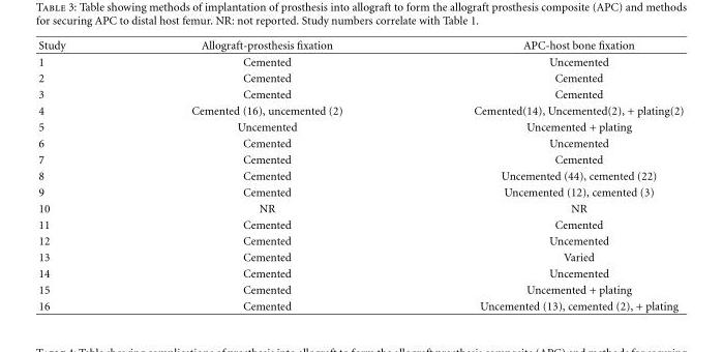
<table><thead><tr><td>Study</td><td>Allograft-prosthesis fixation</td><td>APC-host bone fixation</td></tr></thead><tbody><tr><td>1</td><td>Cemented</td><td>Uncemented</td></tr><tr><td>2</td><td>Cemented</td><td>Cemented</td></tr><tr><td>3</td><td>Cemented</td><td>Cemented</td></tr><tr><td>4</td><td>Cemented (16), uncemented (2)</td><td>Cemented(14), Uncemented(2), + plating(2)</td></tr><tr><td>5</td><td>Uncemented</td><td>Uncemented + plating</td></tr><tr><td>6</td><td>Cemented</td><td>Uncemented</td></tr><tr><td>7</td><td>Cemented</td><td>Cemented</td></tr><tr><td>8</td><td>Cemented</td><td>Uncemented (44), cemented (22)</td></tr><tr><td>9</td><td>Cemented</td><td>Uncemented (12), cemented (3)</td></tr><tr><td>10</td><td>NR</td><td>NR</td></tr><tr><td>11</td><td>Cemented</td><td>Cemented</td></tr><tr><td>12</td><td>Cemented</td><td>Uncemented</td></tr><tr><td>13</td><td>Cemented</td><td>Varied</td></tr><tr><td>14</td><td>Cemented</td><td>Uncemented</td></tr><tr><td>15</td><td>Cemented</td><td>Uncemented + plating</td></tr><tr><td>16</td><td>Cemented</td><td>Uncemented (13), cemented (2), + plating</td></tr></tbody></table>